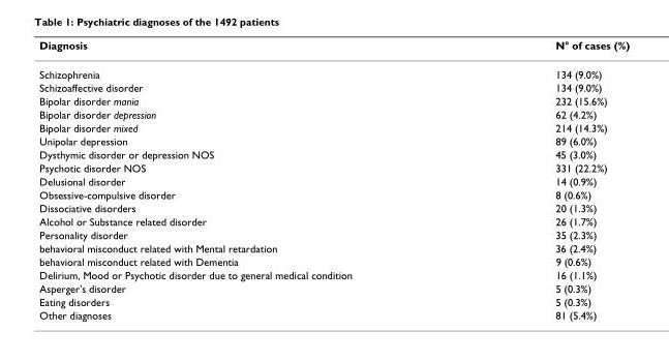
<table><thead><tr><td>Diagnosis</td><td>N° of cases (%)</td></tr></thead><tbody><tr><td>Schizophrenia</td><td>134 (9.0%)</td></tr><tr><td>Schizoaffective disorder</td><td>134 (9.0%)</td></tr><tr><td>Bipolar disorder mania</td><td>232 (15.6%)</td></tr><tr><td>Bipolar disorder depression</td><td>62 (4.2%)</td></tr><tr><td>Bipolar disorder mixed</td><td>214 (14.3%)</td></tr><tr><td>Unipolar depression</td><td>89 (6.0%)</td></tr><tr><td>Dysthymic disorder or depression NOS</td><td>45 (3.0%)</td></tr><tr><td>Psychotic disorder NOS</td><td>331 (22.2%)</td></tr><tr><td>Delusional disorder</td><td>14 (0.9%)</td></tr><tr><td>Obsessive-compulsive disorder</td><td>8 (0.6%)</td></tr><tr><td>Dissociative disorders</td><td>20 (1.3%)</td></tr><tr><td>Alcohol or Substance related disorder</td><td>26 (1.7%)</td></tr><tr><td>Personality disorder</td><td>35 (2.3%)</td></tr><tr><td>behavioral misconduct related with Mental retardation</td><td>36 (2.4%)</td></tr><tr><td>behavioral misconduct related with Dementia</td><td>9 (0.6%)</td></tr><tr><td>Delirium, Mood or Psychotic disorder due to general medical condition</td><td>16 (1.1%)</td></tr><tr><td>Asperger&#x27;s disorder</td><td>5 (0.3%)</td></tr><tr><td>Eating disorders</td><td>5 (0.3%)</td></tr><tr><td>Other diagnoses</td><td>81 (5.4%)</td></tr></tbody></table>